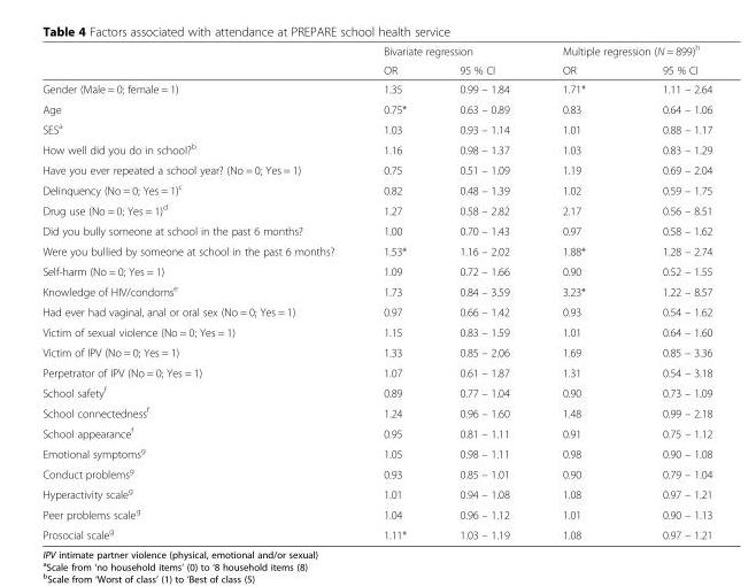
<table><thead><tr><td rowspan="2"></td><td colspan="2">Bivariate regression</td><td colspan="2">Multiple regression (N = 899)<sup>h</sup></td></tr><tr><td>OR</td><td>95 % CI</td><td>OR</td><td>95 % CI</td></tr></thead><tbody><tr><td>Gender (Male = 0; female = 1)</td><td>1.35</td><td>0.99 – 1.84</td><td>1.71*</td><td>1.11 – 2.64</td></tr><tr><td>Age</td><td>0.75*</td><td>0.63 – 0.89</td><td>0.83</td><td>0.64 – 1.06</td></tr><tr><td>SES<sup>a</sup></td><td>1.03</td><td>0.93 – 1.14</td><td>1.01</td><td>0.88 – 1.17</td></tr><tr><td>How well did you do in school?<sup>b</sup></td><td>1.16</td><td>0.98 – 1.37</td><td>1.03</td><td>0.83 – 1.29</td></tr><tr><td>Have you ever repeated a school year? (No = 0; Yes = 1)</td><td>0.75</td><td>0.51 – 1.09</td><td>1.19</td><td>0.69 – 2.04</td></tr><tr><td>Delinquency (No = 0; Yes = 1)<sup>c</sup></td><td>0.82</td><td>0.48 – 1.39</td><td>1.02</td><td>0.59 – 1.75</td></tr><tr><td>Drug use (No = 0; Yes = 1)<sup>d</sup></td><td>1.27</td><td>0.58 – 2.82</td><td>2.17</td><td>0.56 – 8.51</td></tr><tr><td>Did you bully someone at school in the past 6 months?</td><td>1.00</td><td>0.70 – 1.43</td><td>0.97</td><td>0.58 – 1.62</td></tr><tr><td>Were you bullied by someone at school in the past 6 months?</td><td>1.53*</td><td>1.16 – 2.02</td><td>1.88*</td><td>1.28 – 2.74</td></tr><tr><td>Self-harm (No = 0; Yes = 1)</td><td>1.09</td><td>0.72 – 1.66</td><td>0.90</td><td>0.52 – 1.55</td></tr><tr><td>Knowledge of HIV/condoms<sup>e</sup></td><td>1.73</td><td>0.84 – 3.59</td><td>3.23*</td><td>1.22 – 8.57</td></tr><tr><td>Had ever had vaginal, anal or oral sex (No = 0; Yes = 1)</td><td>0.97</td><td>0.66 – 1.42</td><td>0.93</td><td>0.54 – 1.62</td></tr><tr><td>Victim of sexual violence (No = 0; Yes = 1)</td><td>1.15</td><td>0.83 – 1.59</td><td>1.01</td><td>0.64 – 1.60</td></tr><tr><td>Victim of IPV (No = 0; Yes = 1)</td><td>1.33</td><td>0.85 – 2.06</td><td>1.69</td><td>0.85 – 3.36</td></tr><tr><td>Perpetrator of IPV (No = 0; Yes = 1)</td><td>1.07</td><td>0.61 – 1.87</td><td>1.31</td><td>0.54 – 3.18</td></tr><tr><td>School safety<sup>f</sup></td><td>0.89</td><td>0.77 – 1.04</td><td>0.90</td><td>0.73 – 1.09</td></tr><tr><td>School connectedness<sup>f</sup></td><td>1.24</td><td>0.96 – 1.60</td><td>1.48</td><td>0.99 – 2.18</td></tr><tr><td>School appearance<sup>f</sup></td><td>0.95</td><td>0.81 – 1.11</td><td>0.91</td><td>0.75 – 1.12</td></tr><tr><td>Emotional symptoms<sup>g</sup></td><td>1.05</td><td>0.98 – 1.11</td><td>0.98</td><td>0.90 – 1.08</td></tr><tr><td>Conduct problems<sup>g</sup></td><td>0.93</td><td>0.85 – 1.01</td><td>0.90</td><td>0.79 – 1.04</td></tr><tr><td>Hyperactivity scale<sup>g</sup></td><td>1.01</td><td>0.94 – 1.08</td><td>1.08</td><td>0.97 – 1.21</td></tr><tr><td>Peer problems scale<sup>g</sup></td><td>1.04</td><td>0.96 – 1.12</td><td>1.01</td><td>0.90 – 1.13</td></tr><tr><td>Prosocial scale<sup>g</sup></td><td>1.11*</td><td>1.03 – 1.19</td><td>1.08</td><td>0.97 – 1.21</td></tr></tbody></table>